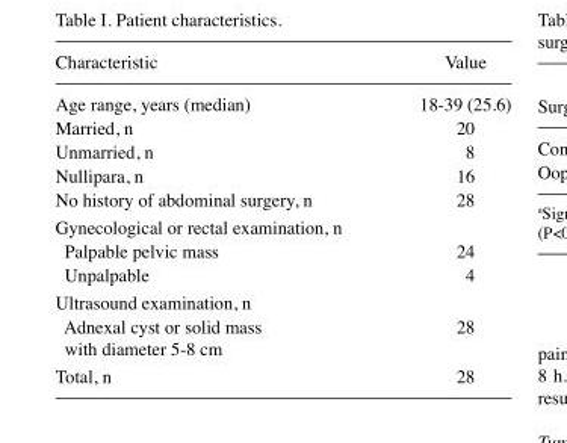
<table><thead><tr><td>Characteristic</td><td>Value</td></tr></thead><tbody><tr><td>Age range, years (median)</td><td>18-39 (25.6)</td></tr><tr><td>Married, n</td><td>20</td></tr><tr><td>Unmarried, n</td><td>8</td></tr><tr><td>Nullipara, n</td><td>16</td></tr><tr><td>No history of abdominal surgery, n</td><td>28</td></tr><tr><td colspan="2">Gynecological or rectal examination, n</td></tr><tr><td>Palpable pelvic mass</td><td>24</td></tr><tr><td>Unpalpable</td><td>4</td></tr><tr><td colspan="2">Ultrasound examination, n</td></tr><tr><td>Adnexal cyst or solid mass with diameter 5-8 cm</td><td>28</td></tr><tr><td>Total, n</td><td>28</td></tr></tbody></table>